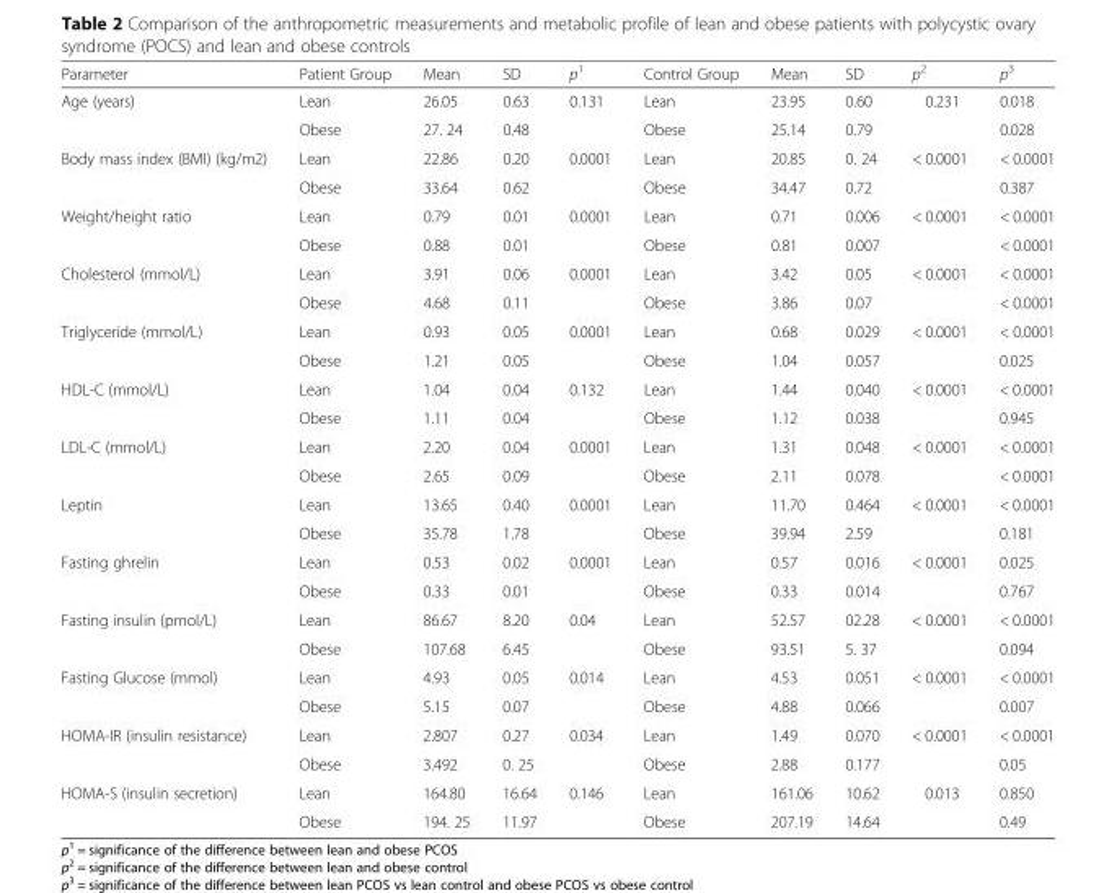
<table><thead><tr><td>Parameter</td><td>Patient Group</td><td>Mean</td><td>SD</td><td>p<sup>1</sup></td><td>Control Group</td><td>Mean</td><td>SD</td><td>p<sup>2</sup></td><td>p<sup>3</sup></td></tr></thead><tbody><tr><td rowspan="2">Age (years)</td><td>Lean</td><td>26.05</td><td>0.63</td><td rowspan="2">0.131</td><td>Lean</td><td>23.95</td><td>0.60</td><td rowspan="2">0.231</td><td>0.018</td></tr><tr><td>Obese</td><td>27. 24</td><td>0.48</td><td>Obese</td><td>25.14</td><td>0.79</td><td>0.028</td></tr><tr><td rowspan="2">Body mass index (BMI) (kg/m2)</td><td>Lean</td><td>22.86</td><td>0.20</td><td rowspan="2">0.0001</td><td>Lean</td><td>20.85</td><td>0. 24</td><td rowspan="2">&lt; 0.0001</td><td>&lt; 0.0001</td></tr><tr><td>Obese</td><td>33.64</td><td>0.62</td><td>Obese</td><td>34.47</td><td>0.72</td><td>0.387</td></tr><tr><td rowspan="2">Weight/height ratio</td><td>Lean</td><td>0.79</td><td>0.01</td><td rowspan="2">0.0001</td><td>Lean</td><td>0.71</td><td>0.006</td><td rowspan="2">&lt; 0.0001</td><td>&lt; 0.0001</td></tr><tr><td>Obese</td><td>0.88</td><td>0.01</td><td>Obese</td><td>0.81</td><td>0.007</td><td>&lt; 0.0001</td></tr><tr><td rowspan="2">Cholesterol (mmol/L)</td><td>Lean</td><td>3.91</td><td>0.06</td><td rowspan="2">0.0001</td><td>Lean</td><td>3.42</td><td>0.05</td><td rowspan="2">&lt; 0.0001</td><td>&lt; 0.0001</td></tr><tr><td>Obese</td><td>4.68</td><td>0.11</td><td>Obese</td><td>3.86</td><td>0.07</td><td>&lt; 0.0001</td></tr><tr><td rowspan="2">Triglyceride (mmol/L)</td><td>Lean</td><td>0.93</td><td>0.05</td><td rowspan="2">0.0001</td><td>Lean</td><td>0.68</td><td>0.029</td><td rowspan="2">&lt; 0.0001</td><td>&lt; 0.0001</td></tr><tr><td>Obese</td><td>1.21</td><td>0.05</td><td>Obese</td><td>1.04</td><td>0.057</td><td>0.025</td></tr><tr><td rowspan="2">HDL-C (mmol/L)</td><td>Lean</td><td>1.04</td><td>0.04</td><td rowspan="2">0.132</td><td>Lean</td><td>1.44</td><td>0.040</td><td rowspan="2">&lt; 0.0001</td><td>&lt; 0.0001</td></tr><tr><td>Obese</td><td>1.11</td><td>0.04</td><td>Obese</td><td>1.12</td><td>0.038</td><td>0.945</td></tr><tr><td rowspan="2">LDL-C (mmol/L)</td><td>Lean</td><td>2.20</td><td>0.04</td><td rowspan="2">0.0001</td><td>Lean</td><td>1.31</td><td>0.048</td><td rowspan="2">&lt; 0.0001</td><td>&lt; 0.0001</td></tr><tr><td>Obese</td><td>2.65</td><td>0.09</td><td>Obese</td><td>2.11</td><td>0.078</td><td>&lt; 0.0001</td></tr><tr><td rowspan="2">Leptin</td><td>Lean</td><td>13.65</td><td>0.40</td><td rowspan="2">0.0001</td><td>Lean</td><td>11.70</td><td>0.464</td><td rowspan="2">&lt; 0.0001</td><td>&lt; 0.0001</td></tr><tr><td>Obese</td><td>35.78</td><td>1.78</td><td>Obese</td><td>39.94</td><td>2.59</td><td>0.181</td></tr><tr><td rowspan="2">Fasting ghrelin</td><td>Lean</td><td>0.53</td><td>0.02</td><td rowspan="2">0.0001</td><td>Lean</td><td>0.57</td><td>0.016</td><td rowspan="2">&lt; 0.0001</td><td>0.025</td></tr><tr><td>Obese</td><td>0.33</td><td>0.01</td><td>Obese</td><td>0.33</td><td>0.014</td><td>0.767</td></tr><tr><td rowspan="2">Fasting insulin (pmol/L)</td><td>Lean</td><td>86.67</td><td>8.20</td><td rowspan="2">0.04</td><td>Lean</td><td>52.57</td><td>02.28</td><td rowspan="2">&lt; 0.0001</td><td>&lt; 0.0001</td></tr><tr><td>Obese</td><td>107.68</td><td>6.45</td><td>Obese</td><td>93.51</td><td>5. 37</td><td>0.094</td></tr><tr><td rowspan="2">Fasting Glucose (mmol)</td><td>Lean</td><td>4.93</td><td>0.05</td><td rowspan="2">0.014</td><td>Lean</td><td>4.53</td><td>0.051</td><td rowspan="2">&lt; 0.0001</td><td>&lt; 0.0001</td></tr><tr><td>Obese</td><td>5.15</td><td>0.07</td><td>Obese</td><td>4.88</td><td>0.066</td><td>0.007</td></tr><tr><td rowspan="2">HOMA-IR (insulin resistance)</td><td>Lean</td><td>2.807</td><td>0.27</td><td rowspan="2">0.034</td><td>Lean</td><td>1.49</td><td>0.070</td><td rowspan="2">&lt; 0.0001</td><td>&lt; 0.0001</td></tr><tr><td>Obese</td><td>3.492</td><td>0. 25</td><td>Obese</td><td>2.88</td><td>0.177</td><td>0.05</td></tr><tr><td rowspan="2">HOMA-S (insulin secretion)</td><td>Lean</td><td>164.80</td><td>16.64</td><td rowspan="2">0.146</td><td>Lean</td><td>161.06</td><td>10.62</td><td rowspan="2">0.013</td><td>0.850</td></tr><tr><td>Obese</td><td>194. 25</td><td>11.97</td><td>Obese</td><td>207.19</td><td>14.64</td><td>0.49</td></tr></tbody></table>